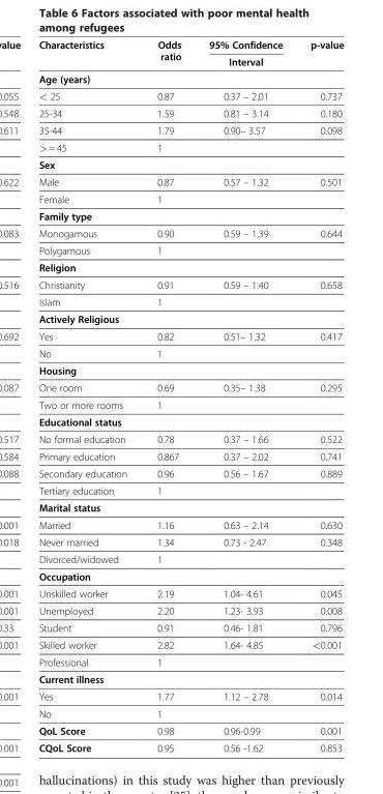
<table><thead><tr><td rowspan="2">Characteristics</td><td rowspan="2">Odds ratio</td><td rowspan="2">95% Confidence Interval</td><td rowspan="2">p-value</td></tr><tr></tr></thead><tbody><tr><td colspan="4">Age (years)</td></tr><tr><td>&lt; 25</td><td>0.87</td><td>0.37 – 2.01</td><td>0.737</td></tr><tr><td>25-34</td><td>1.59</td><td>0.81 – 3.14</td><td>0.180</td></tr><tr><td>35-44</td><td>1.79</td><td>0.90– 3.57</td><td>0.098</td></tr><tr><td>&gt; = 45</td><td>1</td><td></td><td></td></tr><tr><td colspan="4">Sex</td></tr><tr><td>Male</td><td>0.87</td><td>0.57 – 1.32</td><td>0.501</td></tr><tr><td>Female</td><td>1</td><td></td><td></td></tr><tr><td colspan="4">Family type</td></tr><tr><td>Monogamous</td><td>0.90</td><td>0.59 – 1.39</td><td>0.644</td></tr><tr><td>Polygamous</td><td>1</td><td></td><td></td></tr><tr><td colspan="4">Religion</td></tr><tr><td>Christianity</td><td>0.91</td><td>0.59 – 1.40</td><td>0.658</td></tr><tr><td>Islam</td><td>1</td><td></td><td></td></tr><tr><td colspan="4">Actively Religious</td></tr><tr><td>Yes</td><td>0.82</td><td>0.51– 1.32</td><td>0.417</td></tr><tr><td>No</td><td>1</td><td></td><td></td></tr><tr><td colspan="4">Housing</td></tr><tr><td>One room</td><td>0.69</td><td>0.35– 1.38</td><td>0.295</td></tr><tr><td>Two or more rooms</td><td>1</td><td></td><td></td></tr><tr><td colspan="4">Educational status</td></tr><tr><td>No formal education</td><td>0.78</td><td>0.37 – 1.66</td><td>0.522</td></tr><tr><td>Primary education</td><td>0.867</td><td>0.37 – 2.02</td><td>0.741</td></tr><tr><td>Secondary education</td><td>0.96</td><td>0.56 – 1.67</td><td>0.889</td></tr><tr><td>Tertiary education</td><td>1</td><td></td><td></td></tr><tr><td colspan="4">Marital status</td></tr><tr><td>Married</td><td>1.16</td><td>0.63 – 2.14</td><td>0.630</td></tr><tr><td>Never married</td><td>1.34</td><td>0.73 - 2.47</td><td>0.348</td></tr><tr><td>Divorced/widowed</td><td>1</td><td></td><td></td></tr><tr><td colspan="4">Occupation</td></tr><tr><td>Unskilled worker</td><td>2.19</td><td>1.04- 4.61</td><td>0.045</td></tr><tr><td>Unemployed</td><td>2.20</td><td>1.23- 3.93</td><td>0.008</td></tr><tr><td>Student</td><td>0.91</td><td>0.46- 1.81</td><td>0.796</td></tr><tr><td>Skilled worker</td><td>2.82</td><td>1.64- 4.85</td><td>&lt;0.001</td></tr><tr><td>Professional</td><td>1</td><td></td><td></td></tr><tr><td colspan="4">Current illness</td></tr><tr><td>Yes</td><td>1.77</td><td>1.12 – 2.78</td><td>0.014</td></tr><tr><td>No</td><td>1</td><td></td><td></td></tr><tr><td>QoL Score</td><td>0.98</td><td>0.96-0.99</td><td>0.001</td></tr><tr><td>CQoL Score</td><td>0.95</td><td>0.56 -1.62</td><td>0.853</td></tr></tbody></table>